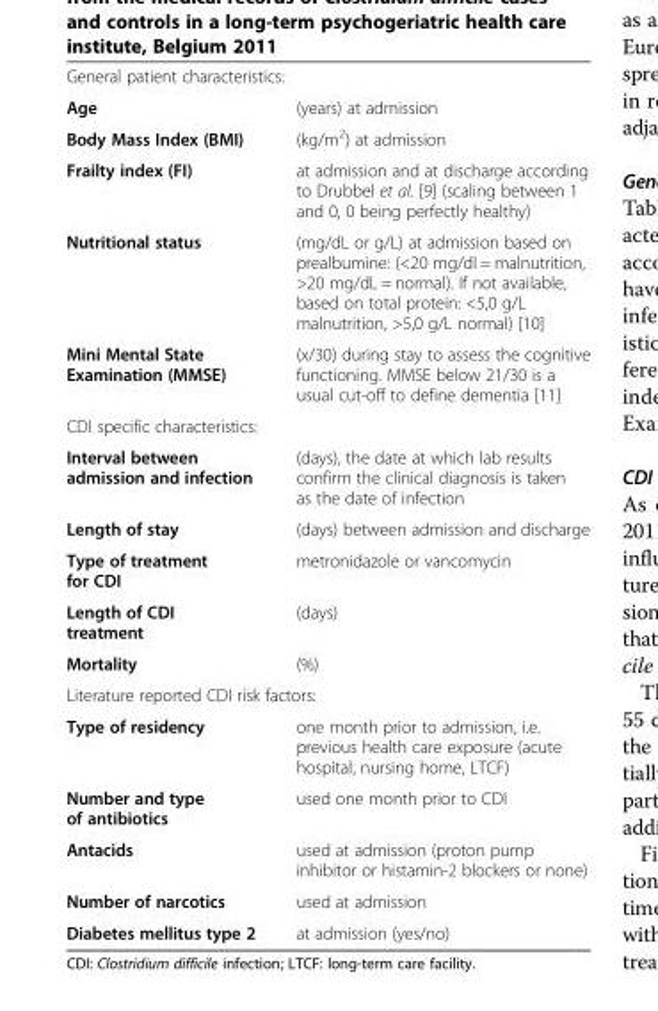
<table><tbody><tr><td colspan="2">General patient characteristics:</td></tr><tr><td>Age</td><td>(years) at admission</td></tr><tr><td>Body Mass Index (BMI)</td><td>(kg/m<sup>2</sup>) at admission</td></tr><tr><td>Frailty index (FI)</td><td>at admission and at discharge according to Drubbel et al. [9] (scaling between 1 and 0, 0 being perfectly healthy)</td></tr><tr><td>Nutritional status</td><td>(mg/dL or g/L) at admission based on prealbumine: (&lt;20 mg/dl = malnutrition, &gt;20 mg/dL = normal). If not available, based on total protein: &lt;5,0 g/L malnutrition, &gt;5,0 g/L normal) [10]</td></tr><tr><td>Mini Mental State Examination (MMSE)</td><td>(x/30) during stay to assess the cognitive functioning. MMSE below 21/30 is a usual cut-off to define dementia [11]</td></tr><tr><td colspan="2">CDI specific characteristics:</td></tr><tr><td>Interval between admission and infection</td><td>(days), the date at which lab results confirm the clinical diagnosis is taken as the date of infection</td></tr><tr><td>Length of stay</td><td>(days) between admission and discharge</td></tr><tr><td>Type of treatment for CDI</td><td>metronidazole or vancomycin</td></tr><tr><td>Length of CDI treatment</td><td>(days)</td></tr><tr><td>Mortality</td><td>(%)</td></tr><tr><td colspan="2">Literature reported CDI risk factors:</td></tr><tr><td>Type of residency</td><td>one month prior to admission, i.e. previous health care exposure (acute hospital, nursing home, LTCF)</td></tr><tr><td>Number and type of antibiotics</td><td>used one month prior to CDI</td></tr><tr><td>Antacids</td><td>used at admission (proton pump inhibitor or histamin-2 blockers or none)</td></tr><tr><td>Number of narcotics</td><td>used at admission</td></tr><tr><td>Diabetes mellitus type 2</td><td>at admission (yes/no)</td></tr></tbody></table>